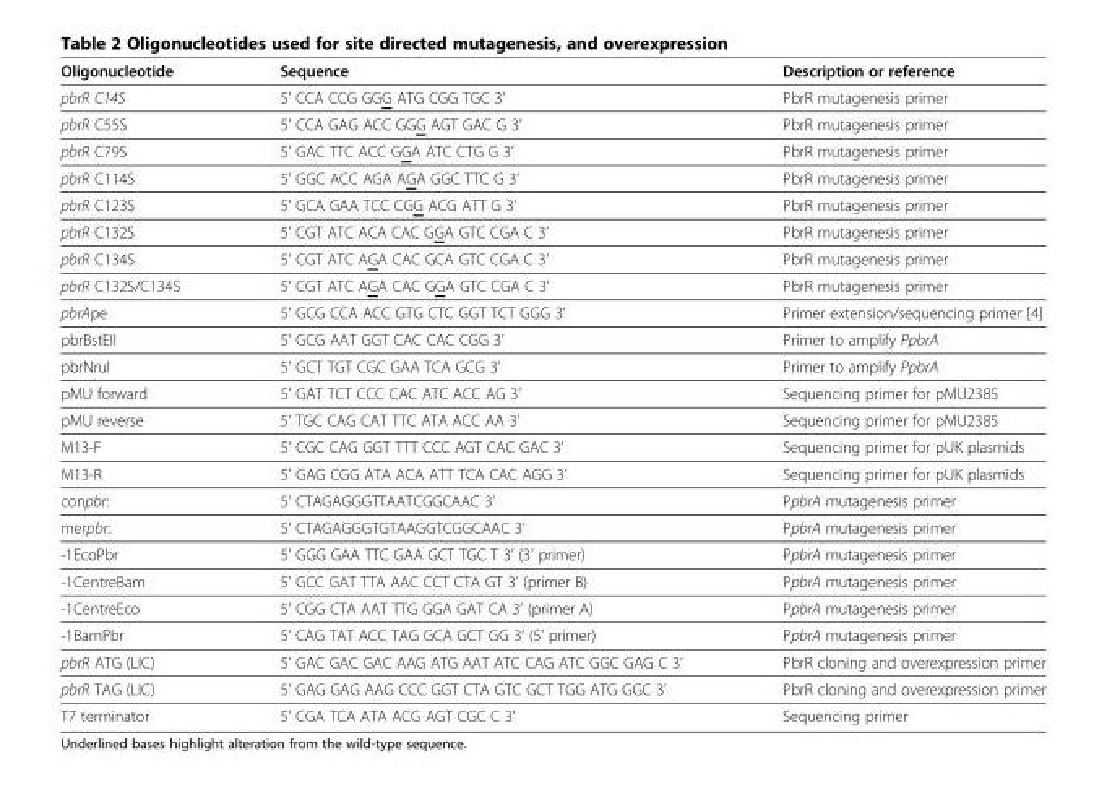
<table><thead><tr><td>Oligonucleotide</td><td>Sequence</td><td>Description or reference</td></tr></thead><tbody><tr><td>pbrR C14S</td><td>5’ CCA CCG GGG ATG CGG TGC 3’</td><td>PbrR mutagenesis primer</td></tr><tr><td>pbrR C55S</td><td>5’ CCA GAG ACC GGG AGT GAC G 3’</td><td>PbrR mutagenesis primer</td></tr><tr><td>pbrR C79S</td><td>5’ GAC TTC ACC GGA ATC CTG G 3’</td><td>PbrR mutagenesis primer</td></tr><tr><td>pbrR C114S</td><td>5’ GGC ACC AGA AGA GGC TTC G 3’</td><td>PbrR mutagenesis primer</td></tr><tr><td>pbrR C123S</td><td>5’ GCA GAA TCC CGG ACG ATT G 3’</td><td>PbrR mutagenesis primer</td></tr><tr><td>pbrR C132S</td><td>5’ CGT ATC ACA CAC GGA GTC CGA C 3’</td><td>PbrR mutagenesis primer</td></tr><tr><td>pbrR C134S</td><td>5’ CGT ATC AGA CAC GCA GTC CGA C 3’</td><td>PbrR mutagenesis primer</td></tr><tr><td>pbrR C132S/C134S</td><td>5’ CGT ATC AGA CAC GGA GTC CGA C 3’</td><td>PbrR mutagenesis primer</td></tr><tr><td>pbrApe</td><td>5’ GCG CCA ACC GTG CTC GGT TCT GGG 3’</td><td>Primer extension/sequencing primer [4]</td></tr><tr><td>pbrBstEII</td><td>5’ GCG AAT GGT CAC CAC CGG 3’</td><td>Primer to amplify PpbrA</td></tr><tr><td>pbrNruI</td><td>5’ GCT TGT CGC GAA TCA GCG 3’</td><td>Primer to amplify PpbrA</td></tr><tr><td>pMU forward</td><td>5’ GAT TCT CCC CAC ATC ACC AG 3’</td><td>Sequencing primer for pMU2385</td></tr><tr><td>pMU reverse</td><td>5’ TGC CAG CAT TTC ATA ACC AA 3’</td><td>Sequencing primer for pMU2385</td></tr><tr><td>M13-F</td><td>5’ CGC CAG GGT TTT CCC AGT CAC GAC 3’</td><td>Sequencing primer for pUK plasmids</td></tr><tr><td>M13-R</td><td>5’ GAG CGG ATA ACA ATT TCA CAC AGG 3’</td><td>Sequencing primer for pUK plasmids</td></tr><tr><td>conpbr:</td><td>5’ CTAGAGGGTTAATCGGCAAC 3’</td><td>PpbrA mutagenesis primer</td></tr><tr><td>merpbr:</td><td>5’ CTAGAGGGTGTAAGGTCGGCAAC 3’</td><td>PpbrA mutagenesis primer</td></tr><tr><td>-1EcoPbr</td><td>5’ GGG GAA TTC GAA GCT TGC T 3’ (3’ primer)</td><td>PpbrA mutagenesis primer</td></tr><tr><td>-1CentreBam</td><td>5’ GCC GAT TTA AAC CCT CTA GT 3’ (primer B)</td><td>PpbrA mutagenesis primer</td></tr><tr><td>-1CentreEco</td><td>5’ CGG CTA AAT TTG GGA GAT CA 3’ (primer A)</td><td>PpbrA mutagenesis primer</td></tr><tr><td>-1BamPbr</td><td>5’ CAG TAT ACC TAG GCA GCT GG 3’ (5’ primer)</td><td>PpbrA mutagenesis primer</td></tr><tr><td>pbrR ATG (LIC)</td><td>5’ GAC GAC GAC AAG ATG AAT ATC CAG ATC GGC GAG C 3’</td><td>PbrR cloning and overexpression primer</td></tr><tr><td>pbrR TAG (LIC)</td><td>5’ GAG GAG AAG CCC GGT CTA GTC GCT TGG ATG GGC 3’</td><td>PbrR cloning and overexpression primer</td></tr><tr><td>T7 terminator</td><td>5’ CGA TCA ATA ACG AGT CGC C 3’</td><td>Sequencing primer</td></tr></tbody></table>